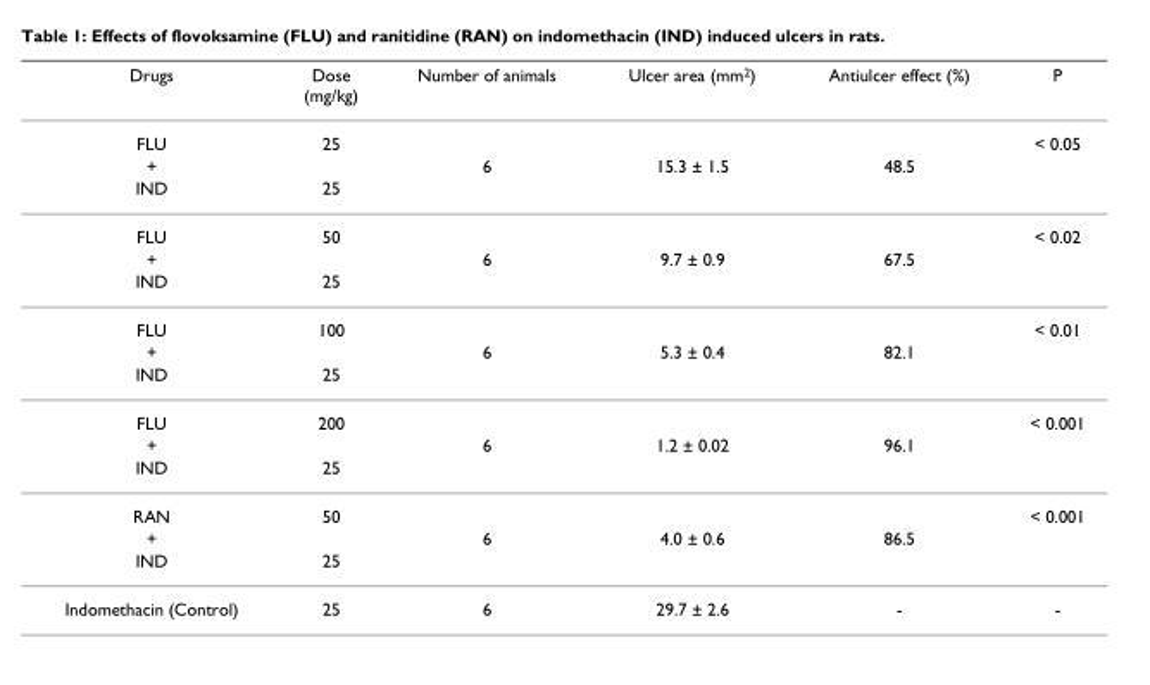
<table><thead><tr><td>Drugs</td><td>Dose (mg/kg)</td><td>Number of animals</td><td>Ulcer area (mm<sup>2</sup>)</td><td>Antiulcer effect (%)</td><td>P</td></tr></thead><tbody><tr><td>FLU</td><td>25</td><td></td><td></td><td></td><td>&lt; 0.05</td></tr><tr><td>+</td><td></td><td>6</td><td>15.3 ± 1.5</td><td>48.5</td><td></td></tr><tr><td>IND</td><td>25</td><td></td><td></td><td></td><td></td></tr><tr><td>FLU</td><td>50</td><td></td><td></td><td></td><td>&lt; 0.02</td></tr><tr><td>+</td><td></td><td>6</td><td>9.7 ± 0.9</td><td>67.5</td><td></td></tr><tr><td>IND</td><td>25</td><td></td><td></td><td></td><td></td></tr><tr><td>FLU</td><td>100</td><td></td><td></td><td></td><td>&lt; 0.01</td></tr><tr><td>+</td><td></td><td>6</td><td>5.3 ± 0.4</td><td>82.1</td><td></td></tr><tr><td>IND</td><td>25</td><td></td><td></td><td></td><td></td></tr><tr><td>FLU</td><td>200</td><td></td><td></td><td></td><td>&lt; 0.001</td></tr><tr><td>+</td><td></td><td>6</td><td>1.2 ± 0.02</td><td>96.1</td><td></td></tr><tr><td>IND</td><td>25</td><td></td><td></td><td></td><td></td></tr><tr><td>RAN</td><td>50</td><td></td><td></td><td></td><td>&lt; 0.001</td></tr><tr><td>+</td><td></td><td>6</td><td>4.0 ± 0.6</td><td>86.5</td><td></td></tr><tr><td>IND</td><td>25</td><td></td><td></td><td></td><td></td></tr><tr><td>Indomethacin (Control)</td><td>25</td><td>6</td><td>29.7 ± 2.6</td><td>-</td><td>-</td></tr></tbody></table>